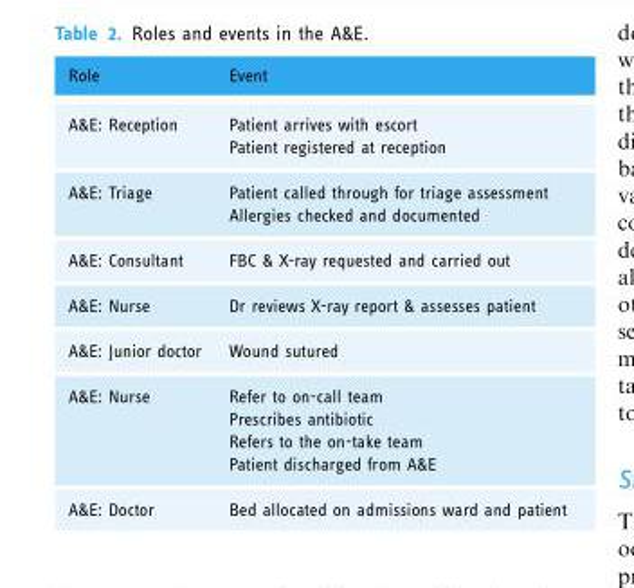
<table><thead><tr><td>Role</td><td>Event</td></tr></thead><tbody><tr><td>A&amp;E: Reception</td><td>Patient arrives with escort Patient registered at reception</td></tr><tr><td>A&amp;E: Triage</td><td>Patient called through for triage assessment Allergies checked and documented</td></tr><tr><td>A&amp;E: Consultant</td><td>FBC &amp; X-ray requested and carried out</td></tr><tr><td>A&amp;E: Nurse</td><td>Dr reviews X-ray report &amp; assesses patient</td></tr><tr><td>A&amp;E: Junior doctor</td><td>Wound sutured</td></tr><tr><td>A&amp;E: Nurse</td><td>Refer to on-call team Prescribes antibiotic Refers to the on-take team Patient discharged from A&amp;E</td></tr><tr><td>A&amp;E: Doctor</td><td>Bed allocated on admissions ward and patient</td></tr></tbody></table>